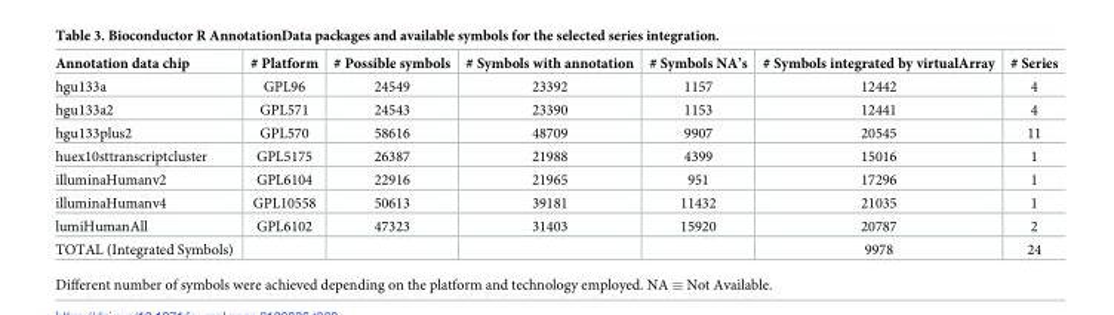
<table><thead><tr><td>Annotation data chip</td><td># Platform</td><td># Possible symbols</td><td># Symbols with annotation</td><td># Symbols NA’s</td><td># Symbols integrated by virtualArray</td><td># Series</td></tr></thead><tbody><tr><td>hgu133a</td><td>GPL96</td><td>24549</td><td>23392</td><td>1157</td><td>12442</td><td>4</td></tr><tr><td>hgu133a2</td><td>GPL571</td><td>24543</td><td>23390</td><td>1153</td><td>12441</td><td>4</td></tr><tr><td>hgu133plus2</td><td>GPL570</td><td>58616</td><td>48709</td><td>9907</td><td>20545</td><td>11</td></tr><tr><td>huex10sttranscriptcluster</td><td>GPL5175</td><td>26387</td><td>21988</td><td>4399</td><td>15016</td><td>1</td></tr><tr><td>illuminaHumanv2</td><td>GPL6104</td><td>22916</td><td>21965</td><td>951</td><td>17296</td><td>1</td></tr><tr><td>illuminaHumanv4</td><td>GPL10558</td><td>50613</td><td>39181</td><td>11432</td><td>21035</td><td>1</td></tr><tr><td>lumiHumanAll</td><td>GPL6102</td><td>47323</td><td>31403</td><td>15920</td><td>20787</td><td>2</td></tr><tr><td>TOTAL (Integrated Symbols)</td><td></td><td></td><td></td><td></td><td>9978</td><td>24</td></tr></tbody></table>